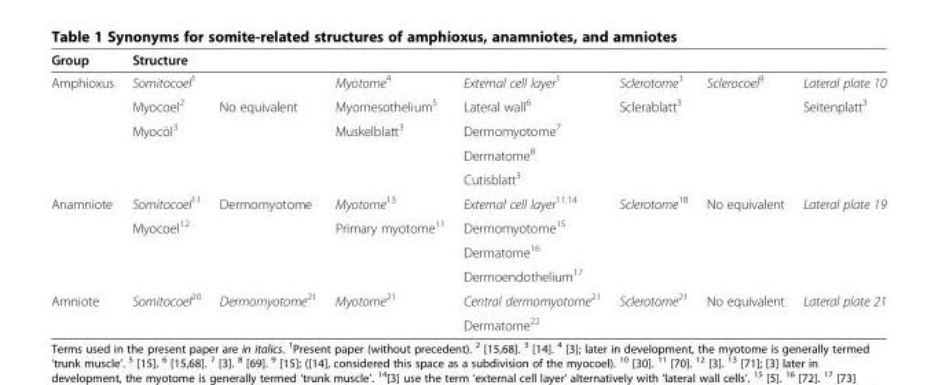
<table><thead><tr><td rowspan="2">Group Amphioxus</td><td colspan="7">Structure</td></tr><tr><td>Somitocoel<sup>1</sup></td><td></td><td>Myotome<sup>4</sup></td><td>External cell layer<sup>1</sup></td><td>Sclerotome<sup>1</sup></td><td>Sclerocoel<sup>9</sup></td><td>Lateral plate 10</td></tr></thead><tbody><tr><td></td><td>Myocoel<sup>2</sup></td><td>No equivalent</td><td>Myomesothelium<sup>5</sup></td><td>Lateral wall<sup>6</sup></td><td>Sclerablatt<sup>3</sup></td><td></td><td>Seitenplatt<sup>3</sup></td></tr><tr><td></td><td>Myocöl<sup>3</sup></td><td></td><td>Muskelblatt<sup>3</sup></td><td>Dermomyotome<sup>7</sup></td><td></td><td></td><td></td></tr><tr><td></td><td></td><td></td><td></td><td>Dermatome<sup>8</sup></td><td></td><td></td><td></td></tr><tr><td></td><td></td><td></td><td></td><td>Cutisblatt<sup>3</sup></td><td></td><td></td><td></td></tr><tr><td rowspan="4">Anamniote</td><td>Somitocoel<sup>11</sup></td><td>Dermomyotome</td><td>Myotome<sup>13</sup></td><td>External cell layer<sup>11,14</sup></td><td>Sclerotome<sup>18</sup></td><td>No equivalent</td><td>Lateral plate 19</td></tr><tr><td>Myocoel<sup>12</sup></td><td></td><td>Primary myotome<sup>11</sup></td><td>Dermomyotome<sup>15</sup></td><td></td><td></td><td></td></tr><tr><td></td><td></td><td></td><td>Dermatome<sup>16</sup></td><td></td><td></td><td></td></tr><tr><td></td><td></td><td></td><td>Dermoendothelium<sup>17</sup></td><td></td><td></td><td></td></tr><tr><td rowspan="2">Amniote</td><td>Somitocoel<sup>20</sup></td><td>Dermomyotome<sup>21</sup></td><td>Myotome<sup>21</sup></td><td>Central dermomyotome<sup>21</sup></td><td>Sclerotome<sup>21</sup></td><td>No equivalent</td><td>Lateral plate 21</td></tr><tr><td></td><td></td><td></td><td>Dermatome<sup>22</sup></td><td></td><td></td><td></td></tr></tbody></table>